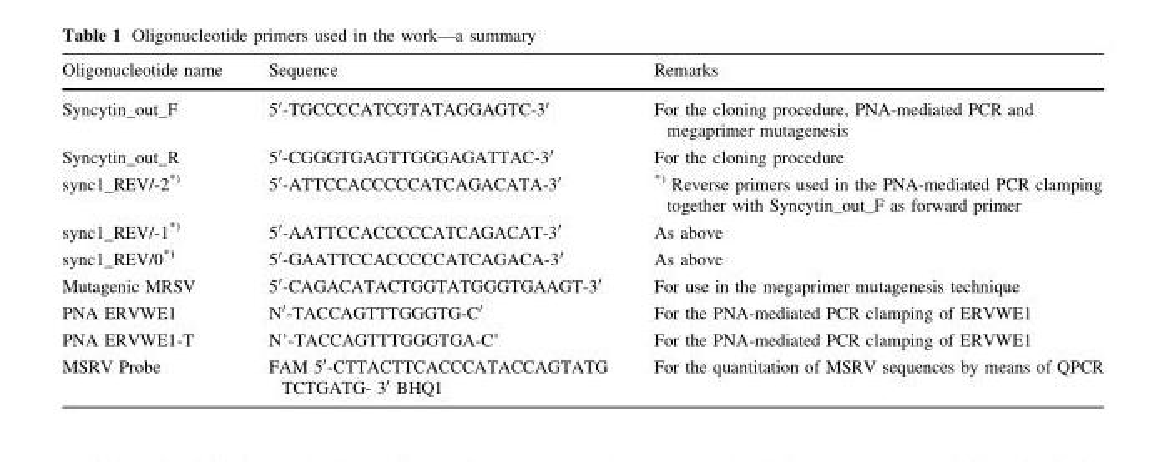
<table><thead><tr><td>Oligonucleotide name</td><td>Sequence</td><td>Remarks</td></tr></thead><tbody><tr><td>Syncytin_out_F</td><td>5′-TGCCCCATCGTATAGGAGTC-3′</td><td>For the cloning procedure, PNA-mediated PCR and megaprimer mutagenesis</td></tr><tr><td>Syncytin_out_R</td><td>5′-CGGGTGAGTTGGGAGATTAC-3′</td><td>For the cloning procedure</td></tr><tr><td>sync1_REV/-2<sup>*)</sup></td><td>5′-ATTCCACCCCCATCAGACATA-3′</td><td><sup>*)</sup> Reverse primers used in the PNA-mediated PCR clamping together with Syncytin_out_F as forward primer</td></tr><tr><td>sync1_REV/-1<sup>*)</sup></td><td>5′-AATTCCACCCCCATCAGACAT-3′</td><td>As above</td></tr><tr><td>sync1_REV/0<sup>*)</sup></td><td>5′-GAATTCCACCCCCATCAGACA-3′</td><td>As above</td></tr><tr><td>Mutagenic MRSV</td><td>5′-CAGACATACTGGTATGGGTGAAGT-3′</td><td>For use in the megaprimer mutagenesis technique</td></tr><tr><td>PNA ERVWE1</td><td>N′-TACCAGTTTGGGTG-C′</td><td>For the PNA-mediated PCR clamping of ERVWE1</td></tr><tr><td>PNA ERVWE1-T</td><td>N’-TACCAGTTTGGGTGA-C’</td><td>For the PNA-mediated PCR clamping of ERVWE1</td></tr><tr><td>MSRV Probe</td><td>FAM 5′-CTTACTTCACCCATACCAGTATG TCTGATG- 3′ BHQ1</td><td>For the quantitation of MSRV sequences by means of QPCR</td></tr></tbody></table>